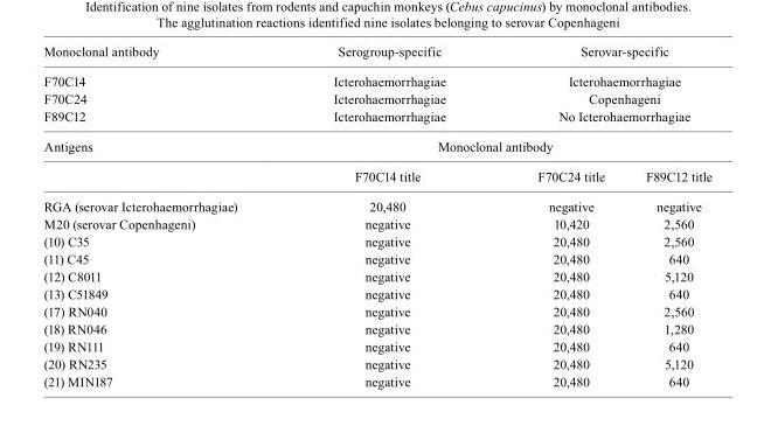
<table><thead><tr><td>Monoclonal antibody</td><td>Serogroup-specific</td><td colspan="2">Serovar-specific</td></tr></thead><tbody><tr><td>F70C14</td><td>Icterohaemorrhagiae</td><td colspan="2">Icterohaemorrhagiae</td></tr><tr><td>F70C24</td><td>Icterohaemorrhagiae</td><td colspan="2">Copenhageni</td></tr><tr><td>F89C12</td><td>Icterohaemorrhagiae</td><td colspan="2">No Icterohaemorrhagiae</td></tr><tr><td rowspan="2">Antigens</td><td colspan="3">Monoclonal antibody</td></tr><tr><td>F70C14 title</td><td>F70C24 title</td><td>F89C12 title</td></tr><tr><td>RGA (serovar Icterohaemorrhagiae)</td><td>20,480</td><td>negative</td><td>negative</td></tr><tr><td>M20 (serovar Copenhageni)</td><td>negative</td><td>10,420</td><td>2,560</td></tr><tr><td>(10) C35</td><td>negative</td><td>20,480</td><td>2,560</td></tr><tr><td>(11) C45</td><td>negative</td><td>20,480</td><td>640</td></tr><tr><td>(12) C8011</td><td>negative</td><td>20,480</td><td>5,120</td></tr><tr><td>(13) C51849</td><td>negative</td><td>20,480</td><td>640</td></tr><tr><td>(17) RN040</td><td>negative</td><td>20,480</td><td>2,560</td></tr><tr><td>(18) RN046</td><td>negative</td><td>20,480</td><td>1,280</td></tr><tr><td>(19) RN111</td><td>negative</td><td>20,480</td><td>640</td></tr><tr><td>(20) RN235</td><td>negative</td><td>20,480</td><td>5,120</td></tr><tr><td>(21) MIN187</td><td>negative</td><td>20,480</td><td>640</td></tr></tbody></table>